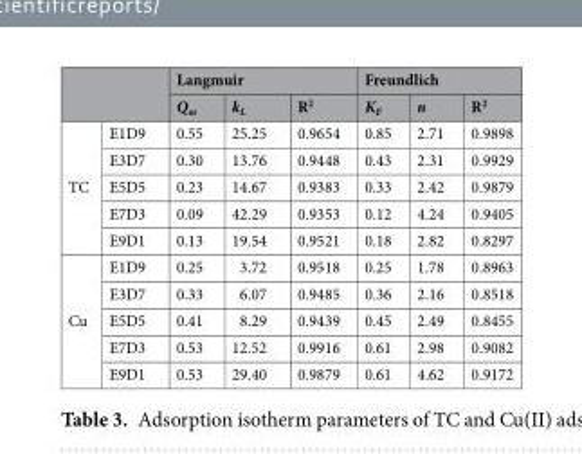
<table><thead><tr><td rowspan="2"></td><td rowspan="2"></td><td colspan="3">Langmuir</td><td colspan="3">Freundlich</td></tr><tr><td>Q<sub>m</sub></td><td>k<sub>L</sub></td><td>R<sup>2</sup></td><td>K<sub>F</sub></td><td>n</td><td>R<sup>2</sup></td></tr></thead><tbody><tr><td rowspan="5">TC</td><td>E1D9</td><td>0.55</td><td>25.25</td><td>0.9654</td><td>0.85</td><td>2.71</td><td>0.9898</td></tr><tr><td>E3D7</td><td>0.30</td><td>13.76</td><td>0.9448</td><td>0.43</td><td>2.31</td><td>0.9929</td></tr><tr><td>E5D5</td><td>0.23</td><td>14.67</td><td>0.9383</td><td>0.33</td><td>2.42</td><td>0.9879</td></tr><tr><td>E7D3</td><td>0.09</td><td>42.29</td><td>0.9353</td><td>0.12</td><td>4.24</td><td>0.9405</td></tr><tr><td>E9D1</td><td>0.13</td><td>19.54</td><td>0.9521</td><td>0.18</td><td>2.82</td><td>0.8297</td></tr><tr><td rowspan="5">Cu</td><td>E1D9</td><td>0.25</td><td>3.72</td><td>0.9518</td><td>0.25</td><td>1.78</td><td>0.8963</td></tr><tr><td>E3D7</td><td>0.33</td><td>6.07</td><td>0.9485</td><td>0.36</td><td>2.16</td><td>0.8518</td></tr><tr><td>E5D5</td><td>0.41</td><td>8.29</td><td>0.9439</td><td>0.45</td><td>2.49</td><td>0.8455</td></tr><tr><td>E7D3</td><td>0.53</td><td>12.52</td><td>0.9916</td><td>0.61</td><td>2.98</td><td>0.9082</td></tr><tr><td>E9D1</td><td>0.53</td><td>29.40</td><td>0.9879</td><td>0.61</td><td>4.62</td><td>0.9172</td></tr></tbody></table>